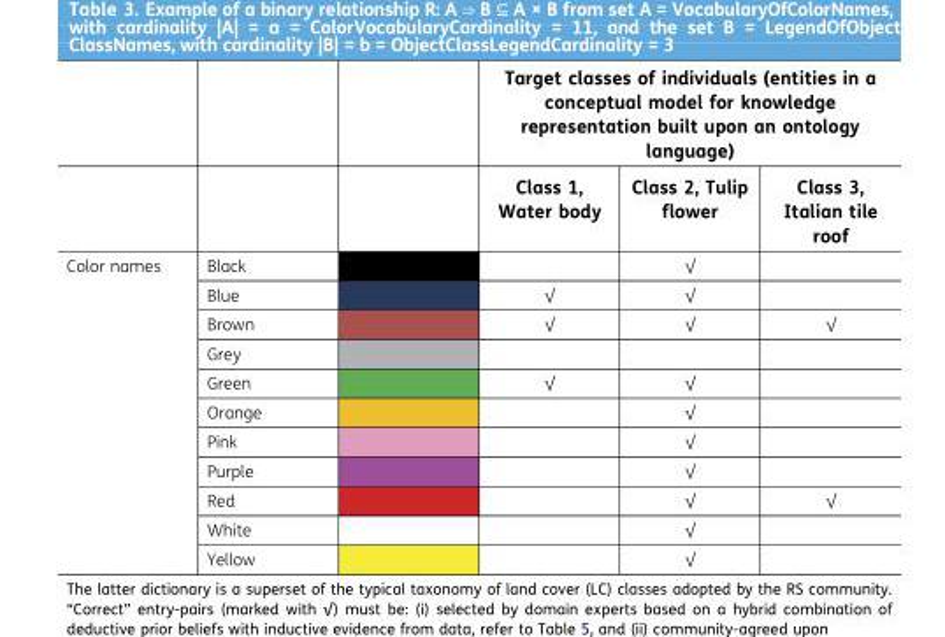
<table><thead><tr><td rowspan="2"></td><td rowspan="2"></td><td colspan="3">Target classes of individuals (entities in a conceptual model for knowledge representation built upon an ontology language)</td></tr><tr><td>Class 1, Water body</td><td>Class 2, Tulip flower</td><td>Class 3, Italian tile roof</td></tr></thead><tbody><tr><td rowspan="11">Color names</td><td>Black</td><td></td><td>√</td><td></td></tr><tr><td>Blue</td><td>√</td><td>√</td><td></td></tr><tr><td>Brown</td><td>√</td><td>√</td><td>√</td></tr><tr><td>Grey</td><td></td><td></td><td></td></tr><tr><td>Green</td><td>√</td><td>√</td><td></td></tr><tr><td>Orange</td><td></td><td>√</td><td></td></tr><tr><td>Pink</td><td></td><td>√</td><td></td></tr><tr><td>Purple</td><td></td><td>√</td><td></td></tr><tr><td>Red</td><td></td><td>√</td><td>√</td></tr><tr><td>White</td><td></td><td>√</td><td></td></tr><tr><td>Yellow</td><td></td><td>√</td><td></td></tr></tbody></table>